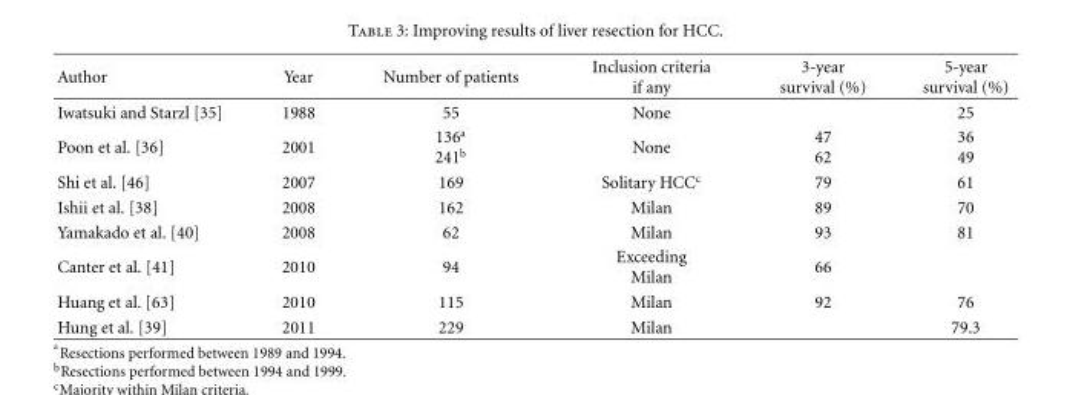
<table><thead><tr><td>Author</td><td>Year</td><td>Number of patients</td><td>Inclusion criteria if any</td><td>3-year survival (%)</td><td>5-year survival (%)</td></tr></thead><tbody><tr><td>Iwatsuki and Starzl [35]</td><td>1988</td><td>55</td><td>None</td><td></td><td>25</td></tr><tr><td>Poon et al. [36]</td><td>2001</td><td>136<sup>a</sup> 241<sup>b</sup></td><td>None</td><td>47 62</td><td>36 49</td></tr><tr><td>Shi et al. [46]</td><td>2007</td><td>169</td><td>Solitary HCC<sup>c</sup></td><td>79</td><td>61</td></tr><tr><td>Ishii et al. [38]</td><td>2008</td><td>162</td><td>Milan</td><td>89</td><td>70</td></tr><tr><td>Yamakado et al. [40]</td><td>2008</td><td>62</td><td>Milan</td><td>93</td><td>81</td></tr><tr><td>Canter et al. [41]</td><td>2010</td><td>94</td><td>Exceeding Milan</td><td>66</td><td></td></tr><tr><td>Huang et al. [63]</td><td>2010</td><td>115</td><td>Milan</td><td>92</td><td>76</td></tr><tr><td>Hung et al. [39]</td><td>2011</td><td>229</td><td>Milan</td><td></td><td>79.3</td></tr></tbody></table>